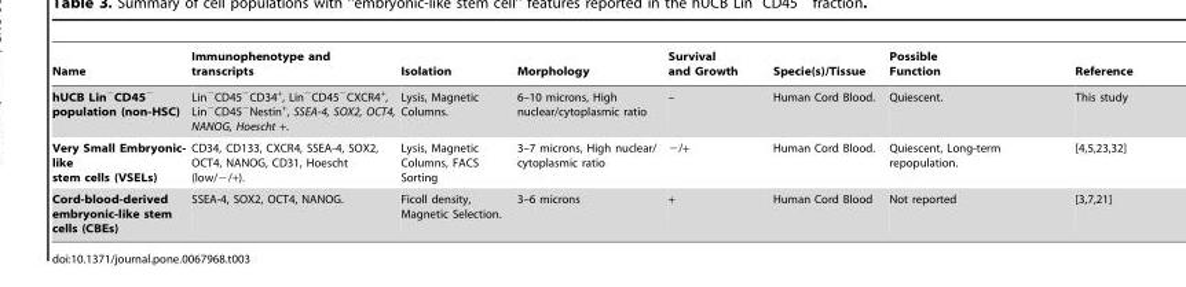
<table><thead><tr><td>Name</td><td>Immunophenotype and transcripts</td><td>Isolation</td><td>Morphology</td><td>Survival and Growth</td><td>Specie(s)/Tissue</td><td>Possible Function</td><td>Reference</td></tr></thead><tbody><tr><td>hUCB Lin<sup>−</sup>CD45<sup>−</sup> population (non-HSC)</td><td>Lin<sup>−</sup>CD45<sup>−</sup>CD34<sup>+</sup>, Lin<sup>−</sup>CD45<sup>−</sup>CXCR4<sup>+</sup>, Lin<sup>−</sup>CD45<sup>−</sup>Nestin<sup>+</sup>, SSEA-4, SOX2, OCT4, NANOG, Hoescht +.</td><td>Lysis, Magnetic Columns.</td><td>6–10 microns, High nuclear/cytoplasmic ratio</td><td>–</td><td>Human Cord Blood.</td><td>Quiescent.</td><td>This study</td></tr><tr><td>Very Small Embryonic- like stem cells (VSELs)</td><td>CD34, CD133, CXCR4, SSEA-4, SOX2, OCT4, NANOG, CD31, Hoescht (low/−/+).</td><td>Lysis, Magnetic Columns, FACS Sorting</td><td>3–7 microns, High nuclear/ cytoplasmic ratio</td><td>−/+</td><td>Human Cord Blood.</td><td>Quiescent, Long-term repopulation.</td><td>[4,5,23,32]</td></tr><tr><td>Cord-blood-derived embryonic-like stem cells (CBEs)</td><td>SSEA-4, SOX2, OCT4, NANOG.</td><td>Ficoll density, Magnetic Selection.</td><td>3–6 microns</td><td>+</td><td>Human Cord Blood</td><td>Not reported</td><td>[3,7,21]</td></tr></tbody></table>